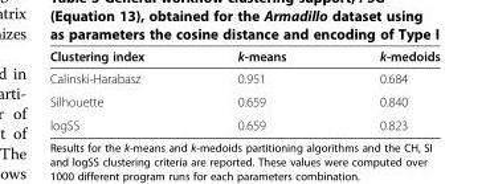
<table><thead><tr><td>Clustering index</td><td>k-means</td><td>k-medoids</td></tr></thead><tbody><tr><td>Calinski-Harabasz</td><td>0.951</td><td>0.684</td></tr><tr><td>Silhouette</td><td>0.659</td><td>0.840</td></tr><tr><td>logSS</td><td>0.659</td><td>0.823</td></tr></tbody></table>